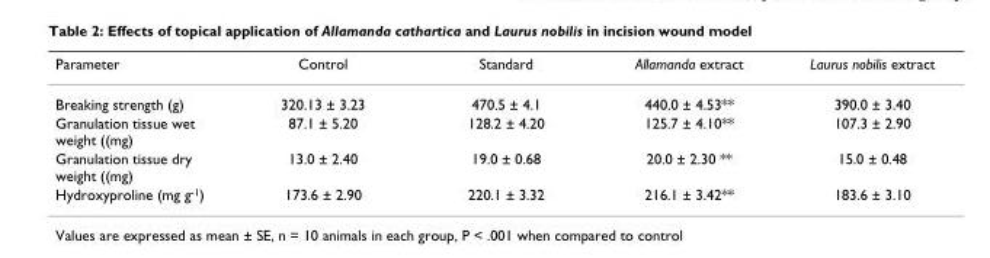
<table><thead><tr><td>Parameter</td><td>Control</td><td>Standard</td><td>Allamanda extract</td><td>Laurus nobilis extract</td></tr></thead><tbody><tr><td>Breaking strength (g)</td><td>320.13 ± 3.23</td><td>470.5 ± 4.1</td><td>440.0 ± 4.53**</td><td>390.0 ± 3.40</td></tr><tr><td>Granulation tissue wet weight ((mg)</td><td>87.1 ± 5.20</td><td>128.2 ± 4.20</td><td>125.7 ± 4.10**</td><td>107.3 ± 2.90</td></tr><tr><td>Granulation tissue dry weight ((mg)</td><td>13.0 ± 2.40</td><td>19.0 ± 0.68</td><td>20.0 ± 2.30 **</td><td>15.0 ± 0.48</td></tr><tr><td>Hydroxyproline (mg g<sup>-1</sup>)</td><td>173.6 ± 2.90</td><td>220.1 ± 3.32</td><td>216.1 ± 3.42**</td><td>183.6 ± 3.10</td></tr></tbody></table>